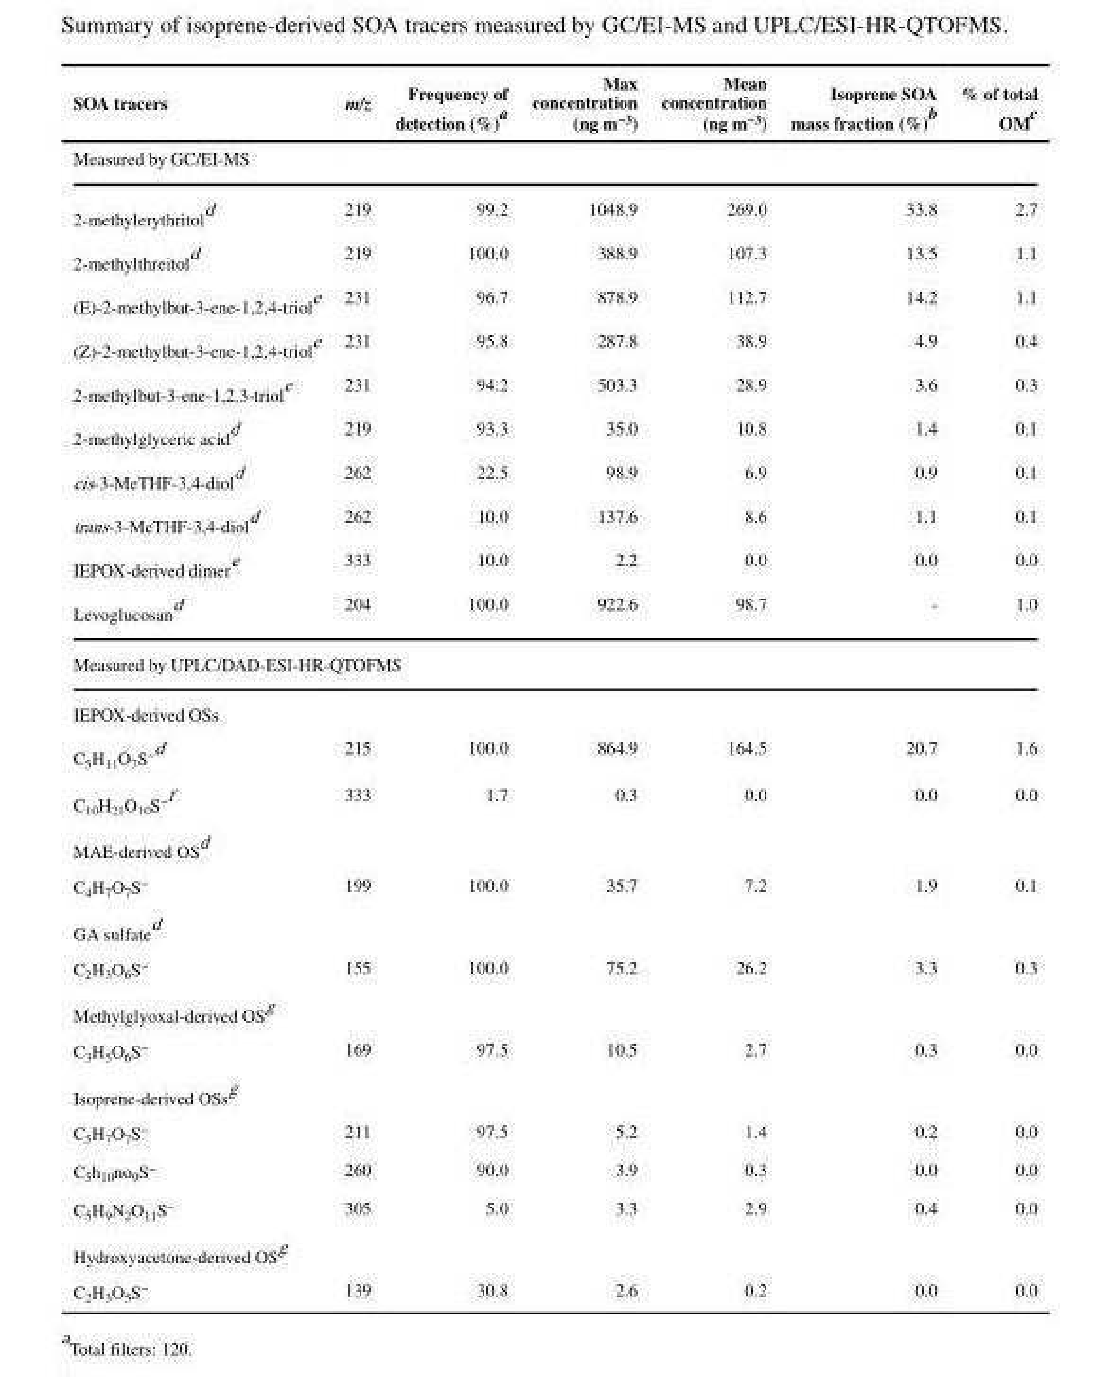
<table><thead><tr><td>SOA tracers</td><td>m/z</td><td>Frequency of detection (%)<sup>a</sup></td><td>Max concentration (ng m<sup>−3</sup>)</td><td>Mean concentration (ng m<sup>−3</sup>)</td><td>Isoprene SOA mass fraction (%)<sup>b</sup></td><td>% of total OM<sup>c</sup></td></tr></thead><tbody><tr><td colspan="7">Measured by GC/EI-MS</td></tr><tr><td>2-methylerythritol<sup>d</sup></td><td>219</td><td>99.2</td><td>1048.9</td><td>269.0</td><td>33.8</td><td>2.7</td></tr><tr><td>2-methylthreitol<sup>d</sup></td><td>219</td><td>100.0</td><td>388.9</td><td>107.3</td><td>13.5</td><td>1.1</td></tr><tr><td>(E)-2-methylbut-3-ene-1,2,4-triol<sup>e</sup></td><td>231</td><td>96.7</td><td>878.9</td><td>112.7</td><td>14.2</td><td>1.1</td></tr><tr><td>(Z)-2-methylbut-3-ene-1,2,4-triol<sup>e</sup></td><td>231</td><td>95.8</td><td>287.8</td><td>38.9</td><td>4.9</td><td>0.4</td></tr><tr><td>2-methylbut-3-ene-1,2,3-triol<sup>e</sup></td><td>231</td><td>94.2</td><td>503.3</td><td>28.9</td><td>3.6</td><td>0.3</td></tr><tr><td>2-methylglyceric acid<sup>d</sup></td><td>219</td><td>93.3</td><td>35.0</td><td>10.8</td><td>1.4</td><td>0.1</td></tr><tr><td>cis-3-MeTHF-3,4-diol<sup>d</sup></td><td>262</td><td>22.5</td><td>98.9</td><td>6.9</td><td>0.9</td><td>0.1</td></tr><tr><td>trans-3-MeTHF-3,4-diol<sup>d</sup></td><td>262</td><td>10.0</td><td>137.6</td><td>8.6</td><td>1.1</td><td>0.1</td></tr><tr><td>IEPOX-derived dimer<sup>e</sup></td><td>333</td><td>10.0</td><td>2.2</td><td>0.0</td><td>0.0</td><td>0.0</td></tr><tr><td>Levoglucosan<sup>d</sup></td><td>204</td><td>100.0</td><td>922.6</td><td>98.7</td><td>-</td><td>1.0</td></tr><tr><td colspan="7">Measured by UPLC/DAD-ESI-HR-QTOFMS</td></tr><tr><td colspan="7">IEPOX-derived OSs</td></tr><tr><td>C<sub>5</sub>H<sub>11</sub>O<sub>7</sub>S<sup>−d</sup></td><td>215</td><td>100.0</td><td>864.9</td><td>164.5</td><td>20.7</td><td>1.6</td></tr><tr><td>C<sub>10</sub>H<sub>21</sub>O<sub>10</sub>S<sup>−f</sup></td><td>333</td><td>1.7</td><td>0.3</td><td>0.0</td><td>0.0</td><td>0.0</td></tr><tr><td colspan="7">MAE-derived OS<sup>d</sup></td></tr><tr><td>C<sub>4</sub>H<sub>7</sub>O<sub>7</sub>S<sup>−</sup></td><td>199</td><td>100.0</td><td>35.7</td><td>7.2</td><td>1.9</td><td>0.1</td></tr><tr><td colspan="7">GA sulfate<sup>d</sup></td></tr><tr><td>C<sub>2</sub>H<sub>3</sub>O<sub>6</sub>S<sup>−</sup></td><td>155</td><td>100.0</td><td>75.2</td><td>26.2</td><td>3.3</td><td>0.3</td></tr><tr><td colspan="7">Methylglyoxal-derived OS<sup>g</sup></td></tr><tr><td>C<sub>3</sub>H<sub>5</sub>O<sub>6</sub>S<sup>−</sup></td><td>169</td><td>97.5</td><td>10.5</td><td>2.7</td><td>0.3</td><td>0.0</td></tr><tr><td colspan="7">Isoprene-derived OSs<sup>g</sup></td></tr><tr><td>C<sub>5</sub>H<sub>7</sub>O<sub>7</sub>S<sup>−</sup></td><td>211</td><td>97.5</td><td>5.2</td><td>1.4</td><td>0.2</td><td>0.0</td></tr><tr><td>C<sub>5</sub>h<sub>10</sub>no<sub>9</sub>S<sup>−</sup></td><td>260</td><td>90.0</td><td>3.9</td><td>0.3</td><td>0.0</td><td>0.0</td></tr><tr><td>C<sub>5</sub>H<sub>9</sub>N<sub>2</sub>O<sub>11</sub>S<sup>−</sup></td><td>305</td><td>5.0</td><td>3.3</td><td>2.9</td><td>0.4</td><td>0.0</td></tr><tr><td colspan="7">Hydroxyacetone-derived OS<sup>g</sup></td></tr><tr><td>C<sub>2</sub>H<sub>3</sub>O<sub>5</sub>S<sup>−</sup></td><td>139</td><td>30.8</td><td>2.6</td><td>0.2</td><td>0.0</td><td>0.0</td></tr></tbody></table>